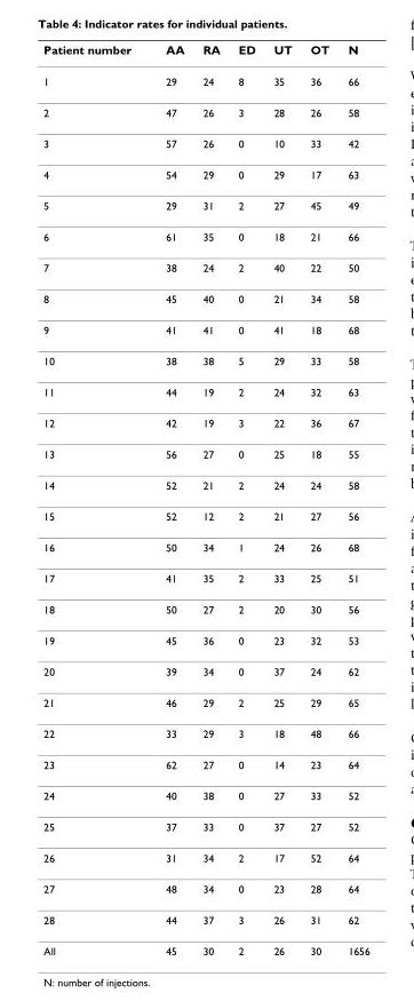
<table><thead><tr><td>Patient number</td><td>AA</td><td>RA</td><td>ED</td><td>UT</td><td>OT</td><td>N</td></tr></thead><tbody><tr><td>1</td><td>29</td><td>24</td><td>8</td><td>35</td><td>36</td><td>66</td></tr><tr><td>2</td><td>47</td><td>26</td><td>3</td><td>28</td><td>26</td><td>58</td></tr><tr><td>3</td><td>57</td><td>26</td><td>0</td><td>10</td><td>33</td><td>42</td></tr><tr><td>4</td><td>54</td><td>29</td><td>0</td><td>29</td><td>17</td><td>63</td></tr><tr><td>5</td><td>29</td><td>31</td><td>2</td><td>27</td><td>45</td><td>49</td></tr><tr><td>6</td><td>61</td><td>35</td><td>0</td><td>18</td><td>21</td><td>66</td></tr><tr><td>7</td><td>38</td><td>24</td><td>2</td><td>40</td><td>22</td><td>50</td></tr><tr><td>8</td><td>45</td><td>40</td><td>0</td><td>21</td><td>34</td><td>58</td></tr><tr><td>9</td><td>41</td><td>41</td><td>0</td><td>41</td><td>18</td><td>68</td></tr><tr><td>10</td><td>38</td><td>38</td><td>5</td><td>29</td><td>33</td><td>58</td></tr><tr><td>11</td><td>44</td><td>19</td><td>2</td><td>24</td><td>32</td><td>63</td></tr><tr><td>12</td><td>42</td><td>19</td><td>3</td><td>22</td><td>36</td><td>67</td></tr><tr><td>13</td><td>56</td><td>27</td><td>0</td><td>25</td><td>18</td><td>55</td></tr><tr><td>14</td><td>52</td><td>21</td><td>2</td><td>24</td><td>24</td><td>58</td></tr><tr><td>15</td><td>52</td><td>12</td><td>2</td><td>21</td><td>27</td><td>56</td></tr><tr><td>16</td><td>50</td><td>34</td><td>1</td><td>24</td><td>26</td><td>68</td></tr><tr><td>17</td><td>41</td><td>35</td><td>2</td><td>33</td><td>25</td><td>51</td></tr><tr><td>18</td><td>50</td><td>27</td><td>2</td><td>20</td><td>30</td><td>56</td></tr><tr><td>19</td><td>45</td><td>36</td><td>0</td><td>23</td><td>32</td><td>53</td></tr><tr><td>20</td><td>39</td><td>34</td><td>0</td><td>37</td><td>24</td><td>62</td></tr><tr><td>21</td><td>46</td><td>29</td><td>2</td><td>25</td><td>29</td><td>65</td></tr><tr><td>22</td><td>33</td><td>29</td><td>3</td><td>18</td><td>48</td><td>66</td></tr><tr><td>23</td><td>62</td><td>27</td><td>0</td><td>14</td><td>23</td><td>64</td></tr><tr><td>24</td><td>40</td><td>38</td><td>0</td><td>27</td><td>33</td><td>52</td></tr><tr><td>25</td><td>37</td><td>33</td><td>0</td><td>37</td><td>27</td><td>52</td></tr><tr><td>26</td><td>31</td><td>34</td><td>2</td><td>17</td><td>52</td><td>64</td></tr><tr><td>27</td><td>48</td><td>34</td><td>0</td><td>23</td><td>28</td><td>64</td></tr><tr><td>28</td><td>44</td><td>37</td><td>3</td><td>26</td><td>31</td><td>62</td></tr><tr><td>All</td><td>45</td><td>30</td><td>2</td><td>26</td><td>30</td><td>1656</td></tr></tbody></table>